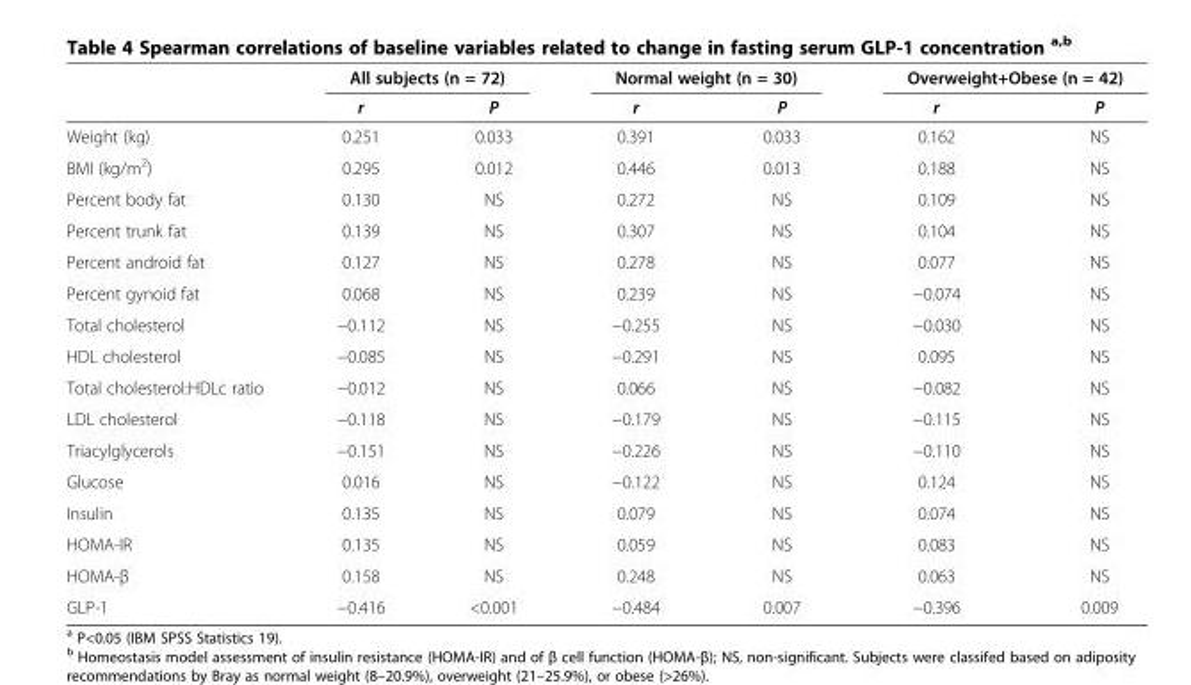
<table><thead><tr><td rowspan="2"></td><td colspan="2">All subjects (n = 72)</td><td colspan="2">Normal weight (n = 30)</td><td colspan="2">Overweight+Obese (n = 42)</td></tr><tr><td>r</td><td>P</td><td>r</td><td>P</td><td>r</td><td>P</td></tr></thead><tbody><tr><td>Weight (kg)</td><td>0.251</td><td>0.033</td><td>0.391</td><td>0.033</td><td>0.162</td><td>NS</td></tr><tr><td>BMI (kg/m<sup>2</sup>)</td><td>0.295</td><td>0.012</td><td>0.446</td><td>0.013</td><td>0.188</td><td>NS</td></tr><tr><td>Percent body fat</td><td>0.130</td><td>NS</td><td>0.272</td><td>NS</td><td>0.109</td><td>NS</td></tr><tr><td>Percent trunk fat</td><td>0.139</td><td>NS</td><td>0.307</td><td>NS</td><td>0.104</td><td>NS</td></tr><tr><td>Percent android fat</td><td>0.127</td><td>NS</td><td>0.278</td><td>NS</td><td>0.077</td><td>NS</td></tr><tr><td>Percent gynoid fat</td><td>0.068</td><td>NS</td><td>0.239</td><td>NS</td><td>−0.074</td><td>NS</td></tr><tr><td>Total cholesterol</td><td>−0.112</td><td>NS</td><td>−0.255</td><td>NS</td><td>−0.030</td><td>NS</td></tr><tr><td>HDL cholesterol</td><td>−0.085</td><td>NS</td><td>−0.291</td><td>NS</td><td>0.095</td><td>NS</td></tr><tr><td>Total cholesterol:HDLc ratio</td><td>−0.012</td><td>NS</td><td>0.066</td><td>NS</td><td>−0.082</td><td>NS</td></tr><tr><td>LDL cholesterol</td><td>−0.118</td><td>NS</td><td>−0.179</td><td>NS</td><td>−0.115</td><td>NS</td></tr><tr><td>Triacylglycerols</td><td>−0.151</td><td>NS</td><td>−0.226</td><td>NS</td><td>−0.110</td><td>NS</td></tr><tr><td>Glucose</td><td>0.016</td><td>NS</td><td>−0.122</td><td>NS</td><td>0.124</td><td>NS</td></tr><tr><td>Insulin</td><td>0.135</td><td>NS</td><td>0.079</td><td>NS</td><td>0.074</td><td>NS</td></tr><tr><td>HOMA-IR</td><td>0.135</td><td>NS</td><td>0.059</td><td>NS</td><td>0.083</td><td>NS</td></tr><tr><td>HOMA-β</td><td>0.158</td><td>NS</td><td>0.248</td><td>NS</td><td>0.063</td><td>NS</td></tr><tr><td>GLP-1</td><td>−0.416</td><td>&lt;0.001</td><td>−0.484</td><td>0.007</td><td>−0.396</td><td>0.009</td></tr></tbody></table>